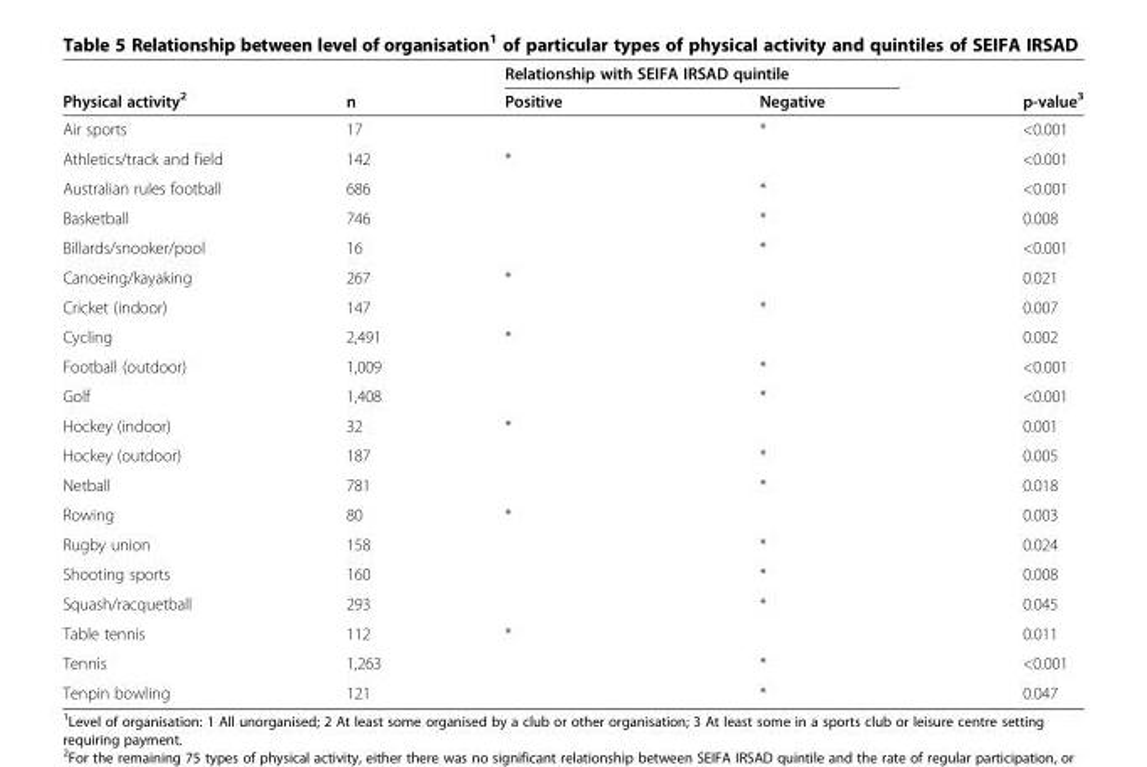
<table><thead><tr><td rowspan="2">Physical activity<sup>2</sup></td><td rowspan="2">n</td><td colspan="2">Relationship with SEIFA IRSAD quintile</td><td rowspan="2">p-value<sup>3</sup></td></tr><tr><td>Positive</td><td>Negative</td></tr></thead><tbody><tr><td>Air sports</td><td>17</td><td></td><td>*</td><td>&lt;0.001</td></tr><tr><td>Athletics/track and field</td><td>142</td><td>*</td><td></td><td>&lt;0.001</td></tr><tr><td>Australian rules football</td><td>686</td><td></td><td>*</td><td>&lt;0.001</td></tr><tr><td>Basketball</td><td>746</td><td></td><td>*</td><td>0.008</td></tr><tr><td>Billards/snooker/pool</td><td>16</td><td></td><td>*</td><td>&lt;0.001</td></tr><tr><td>Canoeing/kayaking</td><td>267</td><td>*</td><td></td><td>0.021</td></tr><tr><td>Cricket (indoor)</td><td>147</td><td></td><td>*</td><td>0.007</td></tr><tr><td>Cycling</td><td>2,491</td><td>*</td><td></td><td>0.002</td></tr><tr><td>Football (outdoor)</td><td>1,009</td><td></td><td>*</td><td>&lt;0.001</td></tr><tr><td>Golf</td><td>1,408</td><td></td><td>*</td><td>&lt;0.001</td></tr><tr><td>Hockey (indoor)</td><td>32</td><td>*</td><td></td><td>0.001</td></tr><tr><td>Hockey (outdoor)</td><td>187</td><td></td><td>*</td><td>0.005</td></tr><tr><td>Netball</td><td>781</td><td></td><td>*</td><td>0.018</td></tr><tr><td>Rowing</td><td>80</td><td>*</td><td></td><td>0.003</td></tr><tr><td>Rugby union</td><td>158</td><td></td><td>*</td><td>0.024</td></tr><tr><td>Shooting sports</td><td>160</td><td></td><td>*</td><td>0.008</td></tr><tr><td>Squash/racquetball</td><td>293</td><td></td><td>*</td><td>0.045</td></tr><tr><td>Table tennis</td><td>112</td><td>*</td><td></td><td>0.011</td></tr><tr><td>Tennis</td><td>1,263</td><td></td><td>*</td><td>&lt;0.001</td></tr><tr><td>Tenpin bowling</td><td>121</td><td></td><td>*</td><td>0.047</td></tr></tbody></table>